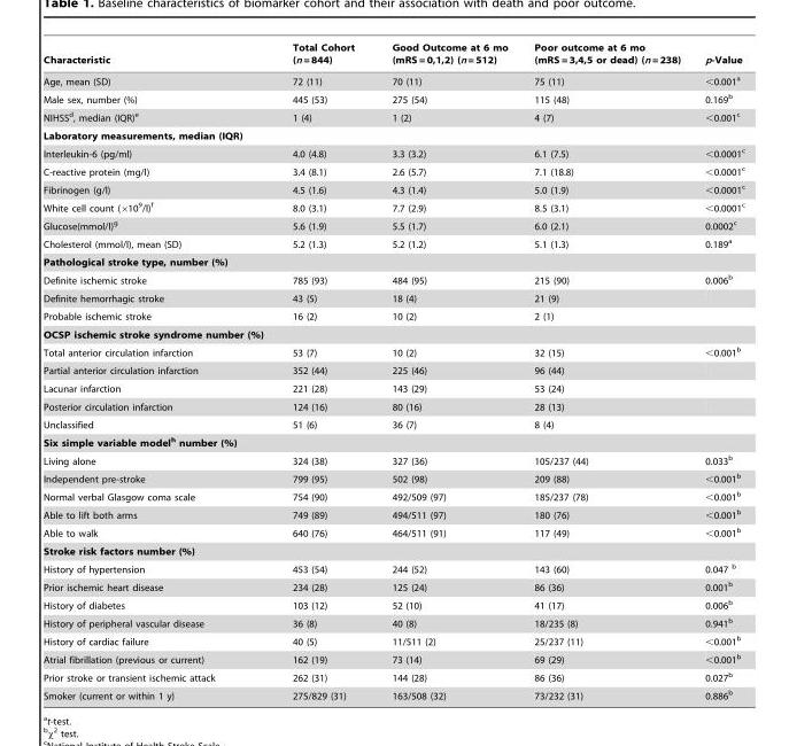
<table><thead><tr><td>Characteristic</td><td>Total Cohort (n = 844)</td><td>Good Outcome at 6 mo (mRS = 0,1,2) (n = 512)</td><td>Poor outcome at 6 mo (mRS = 3,4,5 or dead) (n = 238)</td><td>p-Value</td></tr></thead><tbody><tr><td>Age, mean (SD)</td><td>72 (11)</td><td>70 (11)</td><td>75 (11)</td><td>&lt;0.001<sup>a</sup></td></tr><tr><td>Male sex, number (%)</td><td>445 (53)</td><td>275 (54)</td><td>115 (48)</td><td>0.169<sup>b</sup></td></tr><tr><td>NIHSS<sup>d</sup>, median (IQR)<sup>e</sup></td><td>1 (4)</td><td>1 (2)</td><td>4 (7)</td><td>&lt;0.001<sup>c</sup></td></tr><tr><td colspan="5">Laboratory measurements, median (IQR)</td></tr><tr><td>Interleukin-6 (pg/ml)</td><td>4.0 (4.8)</td><td>3.3 (3.2)</td><td>6.1 (7.5)</td><td>&lt;0.0001<sup>c</sup></td></tr><tr><td>C-reactive protein (mg/l)</td><td>3.4 (8.1)</td><td>2.6 (5.7)</td><td>7.1 (18.8)</td><td>&lt;0.0001<sup>c</sup></td></tr><tr><td>Fibrinogen (g/l)</td><td>4.5 (1.6)</td><td>4.3 (1.4)</td><td>5.0 (1.9)</td><td>&lt;0.0001<sup>c</sup></td></tr><tr><td>White cell count (×10<sup>9</sup>/l)<sup>f</sup></td><td>8.0 (3.1)</td><td>7.7 (2.9)</td><td>8.5 (3.1)</td><td>&lt;0.0001<sup>c</sup></td></tr><tr><td>Glucose(mmol/l)<sup>g</sup></td><td>5.6 (1.9)</td><td>5.5 (1.7)</td><td>6.0 (2.1)</td><td>0.0002<sup>c</sup></td></tr><tr><td>Cholesterol (mmol/l), mean (SD)</td><td>5.2 (1.3)</td><td>5.2 (1.2)</td><td>5.1 (1.3)</td><td>0.189<sup>a</sup></td></tr><tr><td colspan="5">Pathological stroke type, number (%)</td></tr><tr><td>Definite ischemic stroke</td><td>785 (93)</td><td>484 (95)</td><td>215 (90)</td><td>0.006<sup>b</sup></td></tr><tr><td>Definite hemorrhagic stroke</td><td>43 (5)</td><td>18 (4)</td><td>21 (9)</td><td></td></tr><tr><td>Probable ischemic stroke</td><td>16 (2)</td><td>10 (2)</td><td>2 (1)</td><td></td></tr><tr><td colspan="5">OCSP ischemic stroke syndrome number (%)</td></tr><tr><td>Total anterior circulation infarction</td><td>53 (7)</td><td>10 (2)</td><td>32 (15)</td><td>&lt;0.001<sup>b</sup></td></tr><tr><td>Partial anterior circulation infarction</td><td>352 (44)</td><td>225 (46)</td><td>96 (44)</td><td></td></tr><tr><td>Lacunar infarction</td><td>221 (28)</td><td>143 (29)</td><td>53 (24)</td><td></td></tr><tr><td>Posterior circulation infarction</td><td>124 (16)</td><td>80 (16)</td><td>28 (13)</td><td></td></tr><tr><td>Unclassified</td><td>51 (6)</td><td>36 (7)</td><td>8 (4)</td><td></td></tr><tr><td colspan="5">Six simple variable modelh number (%)</td></tr><tr><td>Living alone</td><td>324 (38)</td><td>327 (36)</td><td>105/237 (44)</td><td>0.033<sup>b</sup></td></tr><tr><td>Independent pre-stroke</td><td>799 (95)</td><td>502 (98)</td><td>209 (88)</td><td>&lt;0.001<sup>b</sup></td></tr><tr><td>Normal verbal Glasgow coma scale</td><td>754 (90)</td><td>492/509 (97)</td><td>185/237 (78)</td><td>&lt;0.001<sup>b</sup></td></tr><tr><td>Able to lift both arms</td><td>749 (89)</td><td>494/511 (97)</td><td>180 (76)</td><td>&lt;0.001<sup>b</sup></td></tr><tr><td>Able to walk</td><td>640 (76)</td><td>464/511 (91)</td><td>117 (49)</td><td>&lt;0.001<sup>b</sup></td></tr><tr><td colspan="5">Stroke risk factors number (%)</td></tr><tr><td>History of hypertension</td><td>453 (54)</td><td>244 (52)</td><td>143 (60)</td><td>0.047 b</td></tr><tr><td>Prior ischemic heart disease</td><td>234 (28)</td><td>125 (24)</td><td>86 (36)</td><td>0.001<sup>b</sup></td></tr><tr><td>History of diabetes</td><td>103 (12)</td><td>52 (10)</td><td>41 (17)</td><td>0.006<sup>b</sup></td></tr><tr><td>History of peripheral vascular disease</td><td>36 (8)</td><td>40 (8)</td><td>18/235 (8)</td><td>0.941<sup>b</sup></td></tr><tr><td>History of cardiac failure</td><td>40 (5)</td><td>11/511 (2)</td><td>25/237 (11)</td><td>&lt;0.001<sup>b</sup></td></tr><tr><td>Atrial fibrillation (previous or current)</td><td>162 (19)</td><td>73 (14)</td><td>69 (29)</td><td>&lt;0.001<sup>b</sup></td></tr><tr><td>Prior stroke or transient ischemic attack</td><td>262 (31)</td><td>144 (28)</td><td>86 (36)</td><td>0.027<sup>b</sup></td></tr><tr><td>Smoker (current or within 1 y)</td><td>275/829 (31)</td><td>163/508 (32)</td><td>73/232 (31)</td><td>0.886<sup>b</sup></td></tr></tbody></table>